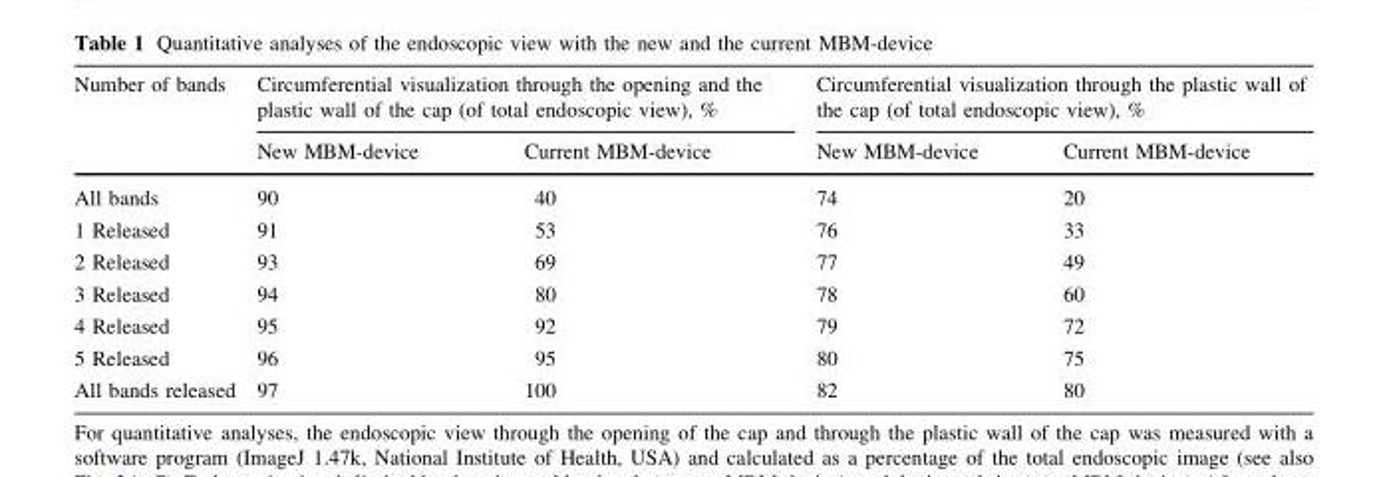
<table><thead><tr><td rowspan="2">Number of bands</td><td colspan="2">Circumferential visualization through the opening and the plastic wall of the cap (of total endoscopic view), %</td><td colspan="2">Circumferential visualization through the plastic wall of the cap (of total endoscopic view), %</td></tr><tr><td>New MBM-device</td><td>Current MBM-device</td><td>New MBM-device</td><td>Current MBM-device</td></tr></thead><tbody><tr><td>All bands</td><td>90</td><td>40</td><td>74</td><td>20</td></tr><tr><td>1 Released</td><td>91</td><td>53</td><td>76</td><td>33</td></tr><tr><td>2 Released</td><td>93</td><td>69</td><td>77</td><td>49</td></tr><tr><td>3 Released</td><td>94</td><td>80</td><td>78</td><td>60</td></tr><tr><td>4 Released</td><td>95</td><td>92</td><td>79</td><td>72</td></tr><tr><td>5 Released</td><td>96</td><td>95</td><td>80</td><td>75</td></tr><tr><td>All bands released</td><td>97</td><td>100</td><td>82</td><td>80</td></tr></tbody></table>